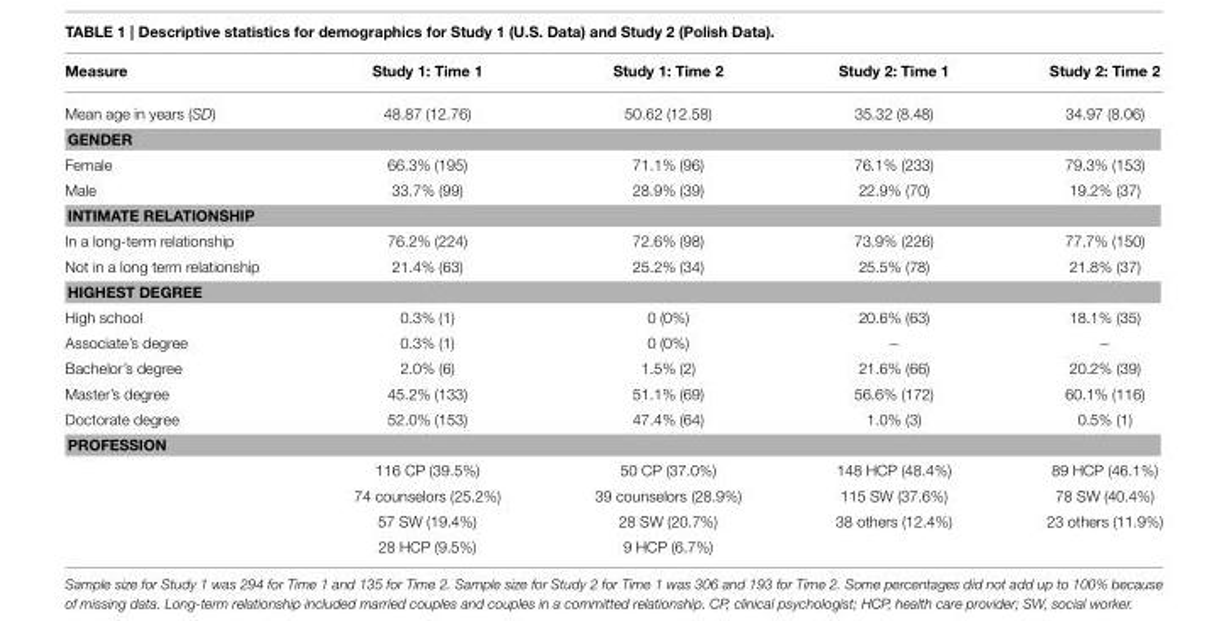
<table><thead><tr><td>Measure</td><td>Study 1: Time 1</td><td>Study 1: Time 2</td><td>Study 2: Time 1</td><td>Study 2: Time 2</td></tr></thead><tbody><tr><td>Mean age in years (SD)</td><td>48.87 (12.76)</td><td>50.62 (12.58)</td><td>35.32 (8.48)</td><td>34.97 (8.06)</td></tr><tr><td colspan="5">GENDER</td></tr><tr><td>Female</td><td>66.3% (195)</td><td>71.1% (96)</td><td>76.1% (233)</td><td>79.3% (153)</td></tr><tr><td>Male</td><td>33.7% (99)</td><td>28.9% (39)</td><td>22.9% (70)</td><td>19.2% (37)</td></tr><tr><td colspan="5">INTIMATE RELATIONSHIP</td></tr><tr><td>In a long-term relationship</td><td>76.2% (224)</td><td>72.6% (98)</td><td>73.9% (226)</td><td>77.7% (150)</td></tr><tr><td>Not in a long term relationship</td><td>21.4% (63)</td><td>25.2% (34)</td><td>25.5% (78)</td><td>21.8% (37)</td></tr><tr><td colspan="5">HIGHEST DEGREE</td></tr><tr><td>High school</td><td>0.3% (1)</td><td>0 (0%)</td><td>20.6% (63)</td><td>18.1% (35)</td></tr><tr><td>Associate’s degree</td><td>0.3% (1)</td><td>0 (0%)</td><td>−</td><td>−</td></tr><tr><td>Bachelor’s degree</td><td>2.0% (6)</td><td>1.5% (2)</td><td>21.6% (66)</td><td>20.2% (39)</td></tr><tr><td>Master’s degree</td><td>45.2% (133)</td><td>51.1% (69)</td><td>56.6% (172)</td><td>60.1% (116)</td></tr><tr><td>Doctorate degree</td><td>52.0% (153)</td><td>47.4% (64)</td><td>1.0% (3)</td><td>0.5% (1)</td></tr><tr><td colspan="5">PROFESSION</td></tr><tr><td></td><td>116 CP (39.5%)</td><td>50 CP (37.0%)</td><td>148 HCP (48.4%)</td><td>89 HCP (46.1%)</td></tr><tr><td></td><td>74 counselors (25.2%)</td><td>39 counselors (28.9%)</td><td>115 SW (37.6%)</td><td>78 SW (40.4%)</td></tr><tr><td></td><td>57 SW (19.4%)</td><td>28 SW (20.7%)</td><td>38 others (12.4%)</td><td>23 others (11.9%)</td></tr><tr><td></td><td>28 HCP (9.5%)</td><td>9 HCP (6.7%)</td><td></td><td></td></tr></tbody></table>